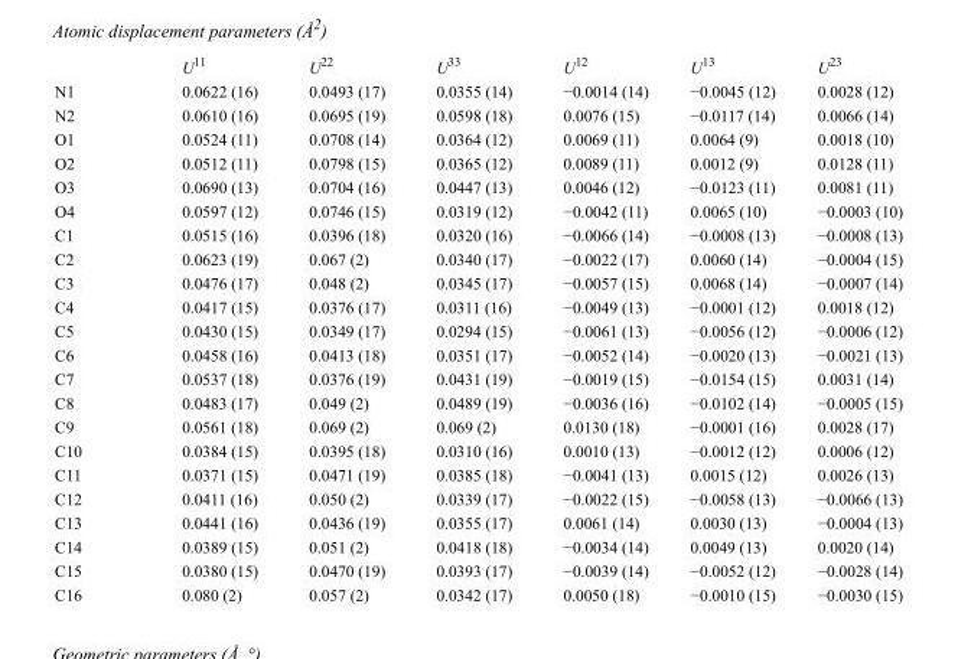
<table><thead><tr><td></td><td>U<sup>11</sup></td><td>U<sup>22</sup></td><td>U<sup>33</sup></td><td>U<sup>12</sup></td><td>U<sup>13</sup></td><td>U<sup>23</sup></td></tr></thead><tbody><tr><td>N1</td><td>0.0622 (16)</td><td>0.0493 (17)</td><td>0.0355 (14)</td><td>−0.0014 (14)</td><td>−0.0045 (12)</td><td>0.0028 (12)</td></tr><tr><td>N2</td><td>0.0610 (16)</td><td>0.0695 (19)</td><td>0.0598 (18)</td><td>0.0076 (15)</td><td>−0.0117 (14)</td><td>0.0066 (14)</td></tr><tr><td>O1</td><td>0.0524 (11)</td><td>0.0708 (14)</td><td>0.0364 (12)</td><td>0.0069 (11)</td><td>0.0064 (9)</td><td>0.0018 (10)</td></tr><tr><td>O2</td><td>0.0512 (11)</td><td>0.0798 (15)</td><td>0.0365 (12)</td><td>0.0089 (11)</td><td>0.0012 (9)</td><td>0.0128 (11)</td></tr><tr><td>O3</td><td>0.0690 (13)</td><td>0.0704 (16)</td><td>0.0447 (13)</td><td>0.0046 (12)</td><td>−0.0123 (11)</td><td>0.0081 (11)</td></tr><tr><td>O4</td><td>0.0597 (12)</td><td>0.0746 (15)</td><td>0.0319 (12)</td><td>−0.0042 (11)</td><td>0.0065 (10)</td><td>−0.0003 (10)</td></tr><tr><td>C1</td><td>0.0515 (16)</td><td>0.0396 (18)</td><td>0.0320 (16)</td><td>−0.0066 (14)</td><td>−0.0008 (13)</td><td>−0.0008 (13)</td></tr><tr><td>C2</td><td>0.0623 (19)</td><td>0.067 (2)</td><td>0.0340 (17)</td><td>−0.0022 (17)</td><td>0.0060 (14)</td><td>−0.0004 (15)</td></tr><tr><td>C3</td><td>0.0476 (17)</td><td>0.048 (2)</td><td>0.0345 (17)</td><td>−0.0057 (15)</td><td>0.0068 (14)</td><td>−0.0007 (14)</td></tr><tr><td>C4</td><td>0.0417 (15)</td><td>0.0376 (17)</td><td>0.0311 (16)</td><td>−0.0049 (13)</td><td>−0.0001 (12)</td><td>0.0018 (12)</td></tr><tr><td>C5</td><td>0.0430 (15)</td><td>0.0349 (17)</td><td>0.0294 (15)</td><td>−0.0061 (13)</td><td>−0.0056 (12)</td><td>−0.0006 (12)</td></tr><tr><td>C6</td><td>0.0458 (16)</td><td>0.0413 (18)</td><td>0.0351 (17)</td><td>−0.0052 (14)</td><td>−0.0020 (13)</td><td>−0.0021 (13)</td></tr><tr><td>C7</td><td>0.0537 (18)</td><td>0.0376 (19)</td><td>0.0431 (19)</td><td>−0.0019 (15)</td><td>−0.0154 (15)</td><td>0.0031 (14)</td></tr><tr><td>C8</td><td>0.0483 (17)</td><td>0.049 (2)</td><td>0.0489 (19)</td><td>−0.0036 (16)</td><td>−0.0102 (14)</td><td>−0.0005 (15)</td></tr><tr><td>C9</td><td>0.0561 (18)</td><td>0.069 (2)</td><td>0.069 (2)</td><td>0.0130 (18)</td><td>−0.0001 (16)</td><td>0.0028 (17)</td></tr><tr><td>C10</td><td>0.0384 (15)</td><td>0.0395 (18)</td><td>0.0310 (16)</td><td>0.0010 (13)</td><td>−0.0012 (12)</td><td>0.0006 (12)</td></tr><tr><td>C11</td><td>0.0371 (15)</td><td>0.0471 (19)</td><td>0.0385 (18)</td><td>−0.0041 (13)</td><td>0.0015 (12)</td><td>0.0026 (13)</td></tr><tr><td>C12</td><td>0.0411 (16)</td><td>0.050 (2)</td><td>0.0339 (17)</td><td>−0.0022 (15)</td><td>−0.0058 (13)</td><td>−0.0066 (13)</td></tr><tr><td>C13</td><td>0.0441 (16)</td><td>0.0436 (19)</td><td>0.0355 (17)</td><td>0.0061 (14)</td><td>0.0030 (13)</td><td>−0.0004 (13)</td></tr><tr><td>C14</td><td>0.0389 (15)</td><td>0.051 (2)</td><td>0.0418 (18)</td><td>−0.0034 (14)</td><td>0.0049 (13)</td><td>0.0020 (14)</td></tr><tr><td>C15</td><td>0.0380 (15)</td><td>0.0470 (19)</td><td>0.0393 (17)</td><td>−0.0039 (14)</td><td>−0.0052 (12)</td><td>−0.0028 (14)</td></tr><tr><td>C16</td><td>0.080 (2)</td><td>0.057 (2)</td><td>0.0342 (17)</td><td>0.0050 (18)</td><td>−0.0010 (15)</td><td>−0.0030 (15)</td></tr></tbody></table>